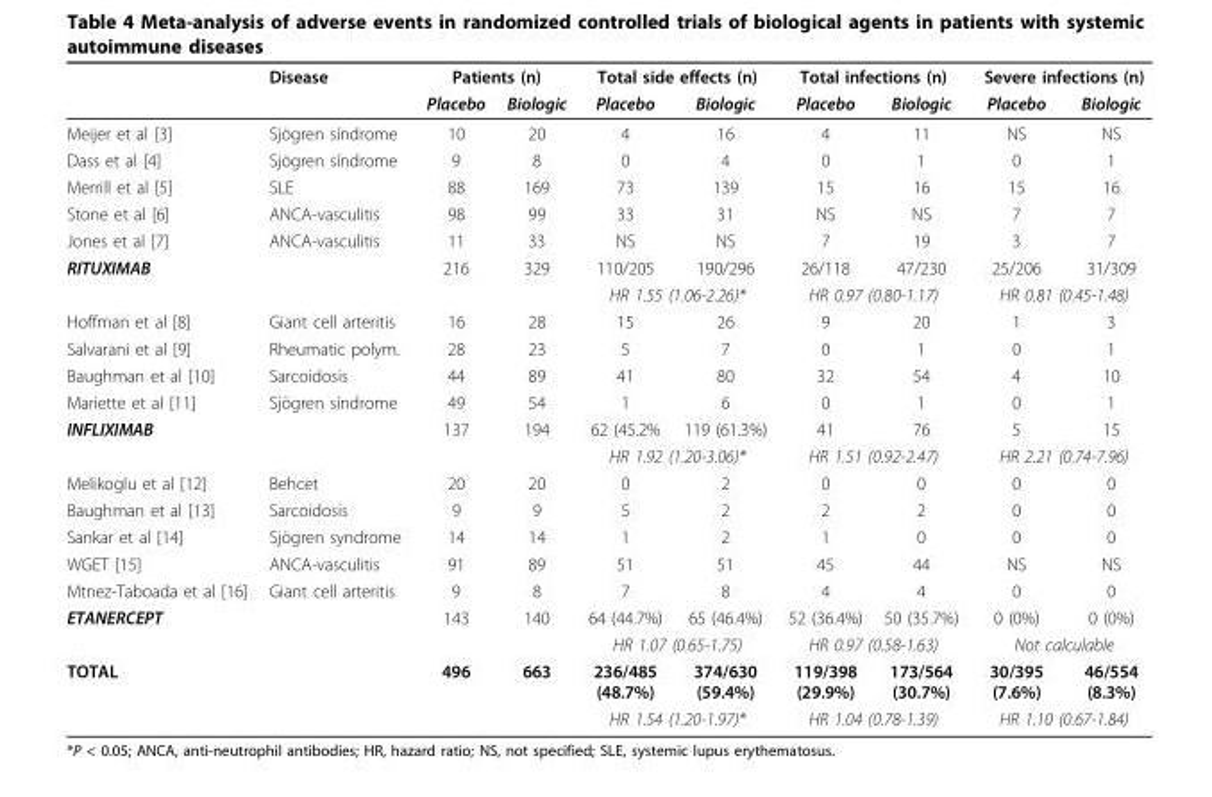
<table><thead><tr><td rowspan="2"></td><td rowspan="2">Disease</td><td colspan="2">Patients (n)</td><td colspan="2">Total side effects (n)</td><td colspan="2">Total infections (n)</td><td colspan="2">Severe infections (n)</td></tr><tr><td>Placebo</td><td>Biologic</td><td>Placebo</td><td>Biologic</td><td>Placebo</td><td>Biologic</td><td>Placebo</td><td>Biologic</td></tr></thead><tbody><tr><td>Meijer et al [3]</td><td>Sjögren síndrome</td><td>10</td><td>20</td><td>4</td><td>16</td><td>4</td><td>11</td><td>NS</td><td>NS</td></tr><tr><td>Dass et al [4]</td><td>Sjögren síndrome</td><td>9</td><td>8</td><td>0</td><td>4</td><td>0</td><td>1</td><td>0</td><td>1</td></tr><tr><td>Merrill et al [5]</td><td>SLE</td><td>88</td><td>169</td><td>73</td><td>139</td><td>15</td><td>16</td><td>15</td><td>16</td></tr><tr><td>Stone et al [6]</td><td>ANCA-vasculitis</td><td>98</td><td>99</td><td>33</td><td>31</td><td>NS</td><td>NS</td><td>7</td><td>7</td></tr><tr><td>Jones et al [7]</td><td>ANCA-vasculitis</td><td>11</td><td>33</td><td>NS</td><td>NS</td><td>7</td><td>19</td><td>3</td><td>7</td></tr><tr><td colspan="2">RITUXIMAB</td><td>216</td><td>329</td><td>110/205</td><td>190/296</td><td>26/118</td><td>47/230</td><td>25/206</td><td>31/309</td></tr><tr><td></td><td></td><td></td><td></td><td colspan="2">HR 1.55 (1.06-2.26)*</td><td colspan="2">HR 0.97 (0.80-1.17)</td><td colspan="2">HR 0.81 (0.45-1.48)</td></tr><tr><td>Hoffman et al [8]</td><td>Giant cell arteritis</td><td>16</td><td>28</td><td>15</td><td>26</td><td>9</td><td>20</td><td>1</td><td>3</td></tr><tr><td>Salvarani et al [9]</td><td>Rheumatic polym.</td><td>28</td><td>23</td><td>5</td><td>7</td><td>0</td><td>1</td><td>0</td><td>1</td></tr><tr><td>Baughman et al [10]</td><td>Sarcoidosis</td><td>44</td><td>89</td><td>41</td><td>80</td><td>32</td><td>54</td><td>4</td><td>10</td></tr><tr><td>Mariette et al [11]</td><td>Sjögren síndrome</td><td>49</td><td>54</td><td>1</td><td>6</td><td>0</td><td>1</td><td>0</td><td>1</td></tr><tr><td colspan="2">INFLIXIMAB</td><td>137</td><td>194</td><td>62 (45.2%</td><td>119 (61.3%)</td><td>41</td><td>76</td><td>5</td><td>15</td></tr><tr><td></td><td></td><td></td><td></td><td colspan="2">HR 1.92 (1.20-3.06)*</td><td colspan="2">HR 1.51 (0.92-2.47)</td><td colspan="2">HR 2.21 (0.74-7.96)</td></tr><tr><td>Melikoglu et al [12]</td><td>Behcet</td><td>20</td><td>20</td><td>0</td><td>2</td><td>0</td><td>0</td><td>0</td><td>0</td></tr><tr><td>Baughman et al [13]</td><td>Sarcoidosis</td><td>9</td><td>9</td><td>5</td><td>2</td><td>2</td><td>2</td><td>0</td><td>0</td></tr><tr><td>Sankar et al [14]</td><td>Sjögren syndrome</td><td>14</td><td>14</td><td>1</td><td>2</td><td>1</td><td>0</td><td>0</td><td>0</td></tr><tr><td>WGET [15]</td><td>ANCA-vasculitis</td><td>91</td><td>89</td><td>51</td><td>51</td><td>45</td><td>44</td><td>NS</td><td>NS</td></tr><tr><td>Mtnez-Taboada et al [16]</td><td>Giant cell arteritis</td><td>9</td><td>8</td><td>7</td><td>8</td><td>4</td><td>4</td><td>0</td><td>0</td></tr><tr><td colspan="2">ETANERCEPT</td><td>143</td><td>140</td><td>64 (44.7%)</td><td>65 (46.4%)</td><td>52 (36.4%)</td><td>50 (35.7%)</td><td>0 (0%)</td><td>0 (0%)</td></tr><tr><td></td><td></td><td></td><td></td><td colspan="2">HR 1.07 (0.65-1.75)</td><td colspan="2">HR 0.97 (0.58-1.63)</td><td colspan="2">Not calculable</td></tr><tr><td colspan="2">TOTAL</td><td>496</td><td>663</td><td>236/485 (48.7%)</td><td>374/630 (59.4%)</td><td>119/398 (29.9%)</td><td>173/564 (30.7%)</td><td>30/395 (7.6%)</td><td>46/554 (8.3%)</td></tr><tr><td></td><td></td><td></td><td></td><td colspan="2">HR 1.54 (1.20-1.97)*</td><td colspan="2">HR 1.04 (0.78-1.39)</td><td colspan="2">HR 1.10 (0.67-1.84)</td></tr></tbody></table>